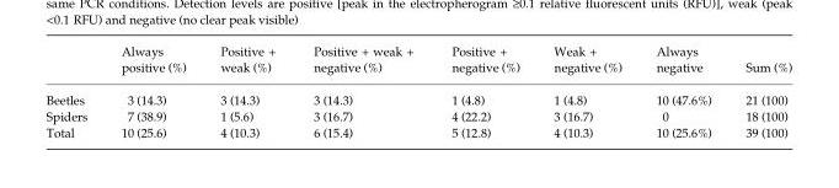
<table><thead><tr><td></td><td>Always positive (%)</td><td>Positive + weak (%)</td><td>Positive + weak + negative (%)</td><td>Positive + negative (%)</td><td>Weak + negative (%)</td><td>Always negative</td><td>Sum (%)</td></tr></thead><tbody><tr><td>Beetles</td><td>3 (14.3)</td><td>3 (14.3)</td><td>3 (14.3)</td><td>1 (4.8)</td><td>1 (4.8)</td><td>10 (47.6%)</td><td>21 (100)</td></tr><tr><td>Spiders</td><td>7 (38.9)</td><td>1 (5.6)</td><td>3 (16.7)</td><td>4 (22.2)</td><td>3 (16.7)</td><td>0</td><td>18 (100)</td></tr><tr><td>Total</td><td>10 (25.6)</td><td>4 (10.3)</td><td>6 (15.4)</td><td>5 (12.8)</td><td>4 (10.3)</td><td>10 (25.6%)</td><td>39 (100)</td></tr></tbody></table>